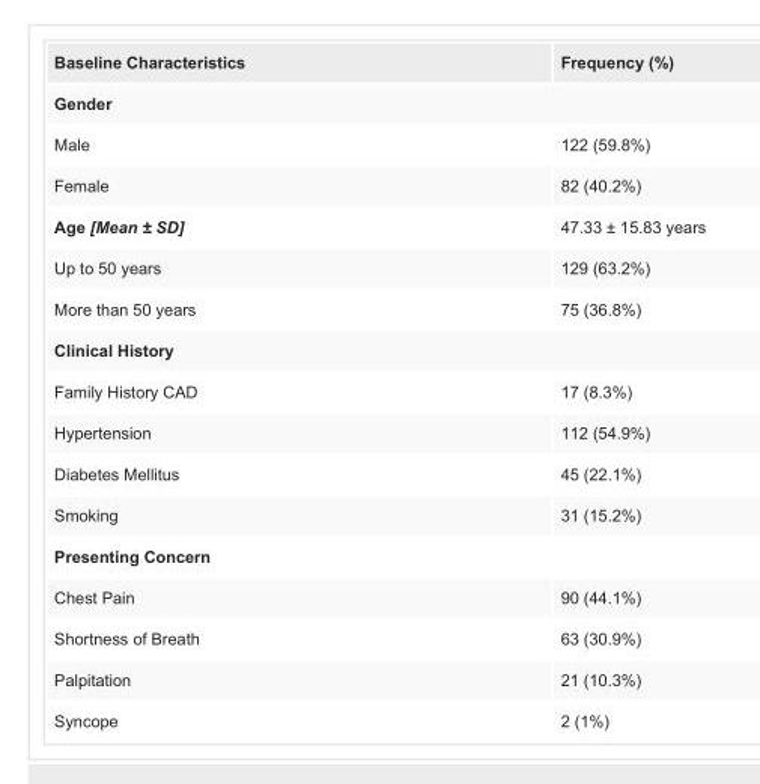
<table><tbody><tr><td>Baseline Characteristics</td><td>Frequency (%)</td></tr><tr><td colspan="2">Gender</td></tr><tr><td>Male</td><td>122 (59.8%)</td></tr><tr><td>Female</td><td>82 (40.2%)</td></tr><tr><td>Age [Mean ± SD]</td><td>47.33 ± 15.83 years</td></tr><tr><td>Up to 50 years</td><td>129 (63.2%)</td></tr><tr><td>More than 50 years</td><td>75 (36.8%)</td></tr><tr><td colspan="2">Clinical History</td></tr><tr><td>Family History CAD</td><td>17 (8.3%)</td></tr><tr><td>Hypertension</td><td>112 (54.9%)</td></tr><tr><td>Diabetes Mellitus</td><td>45 (22.1%)</td></tr><tr><td>Smoking</td><td>31 (15.2%)</td></tr><tr><td colspan="2">Presenting Concern</td></tr><tr><td>Chest Pain</td><td>90 (44.1%)</td></tr><tr><td>Shortness of Breath</td><td>63 (30.9%)</td></tr><tr><td>Palpitation</td><td>21 (10.3%)</td></tr><tr><td>Syncope</td><td>2 (1%)</td></tr></tbody></table>